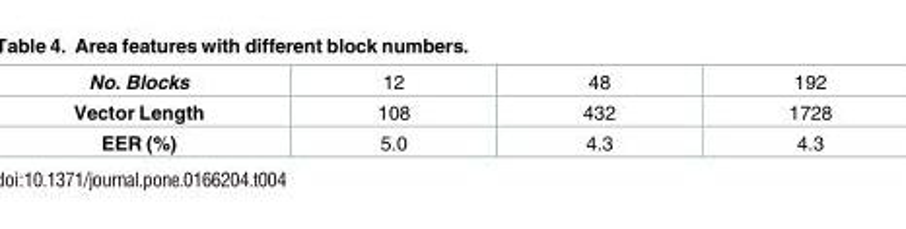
<table><tbody><tr><td>No. Blocks</td><td>12</td><td>48</td><td>192</td></tr><tr><td>Vector Length</td><td>108</td><td>432</td><td>1728</td></tr><tr><td>EER (%)</td><td>5.0</td><td>4.3</td><td>4.3</td></tr></tbody></table>